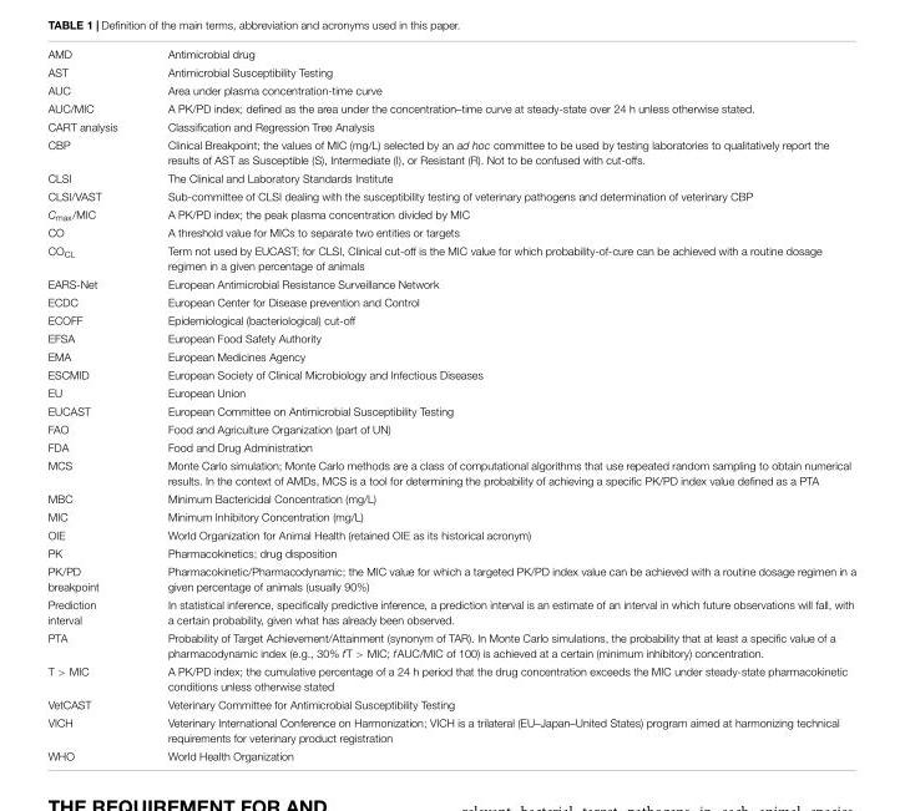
<table><tbody><tr><td>AMD</td><td>Antimicrobial drug</td></tr><tr><td>AST</td><td>Antimicrobial Susceptibility Testing</td></tr><tr><td>AUC</td><td>Area under plasma concentration-time curve</td></tr><tr><td>AUC/MIC</td><td>A PK/PD index; defined as the area under the concentration–time curve at steady-state over 24 h unless otherwise stated.</td></tr><tr><td>CART analysis</td><td>Classification and Regression Tree Analysis</td></tr><tr><td>CBP</td><td>Clinical Breakpoint; the values of MIC (mg/L) selected by an ad hoc committee to be used by testing laboratories to qualitatively report the results of AST as Susceptible (S), Intermediate (I), or Resistant (R). Not to be confused with cut-offs.</td></tr><tr><td>CLSI</td><td>The Clinical and Laboratory Standards Institute</td></tr><tr><td>CLSI/VAST</td><td>Sub-committee of CLSI dealing with the susceptibility testing of veterinary pathogens and determination of veterinary CBP</td></tr><tr><td>C<sub>max</sub>/MIC</td><td>A PK/PD index; the peak plasma concentration divided by MIC</td></tr><tr><td>CO</td><td>A threshold value for MICs to separate two entities or targets</td></tr><tr><td>CO<sub>CL</sub></td><td>Term not used by EUCAST; for CLSI, Clinical cut-off is the MIC value for which probability-of-cure can be achieved with a routine dosage regimen in a given percentage of animals</td></tr><tr><td>EARS-Net</td><td>European Antimicrobial Resistance Surveillance Network</td></tr><tr><td>ECDC</td><td>European Center for Disease prevention and Control</td></tr><tr><td>ECOFF</td><td>Epidemiological (bacteriological) cut-off</td></tr><tr><td>EFSA</td><td>European Food Safety Authority</td></tr><tr><td>EMA</td><td>European Medicines Agency</td></tr><tr><td>ESCMID</td><td>European Society of Clinical Microbiology and Infectious Diseases</td></tr><tr><td>EU</td><td>European Union</td></tr><tr><td>EUCAST</td><td>European Committee on Antimicrobial Susceptibility Testing</td></tr><tr><td>FAO</td><td>Food and Agriculture Organization (part of UN)</td></tr><tr><td>FDA</td><td>Food and Drug Administration</td></tr><tr><td>MCS</td><td>Monte Carlo simulation; Monte Carlo methods are a class of computational algorithms that use repeated random sampling to obtain numerical results. In the context of AMDs, MCS is a tool for determining the probability of achieving a specific PK/PD index value defined as a PTA</td></tr><tr><td>MBC</td><td>Minimum Bactericidal Concentration (mg/L)</td></tr><tr><td>MIC</td><td>Minimum Inhibitory Concentration (mg/L)</td></tr><tr><td>OIE</td><td>World Organization for Animal Health (retained OIE as its historical acronym)</td></tr><tr><td>PK</td><td>Pharmacokinetics; drug disposition</td></tr><tr><td>PK/PD breakpoint</td><td>Pharmacokinetic/Pharmacodynamic; the MIC value for which a targeted PK/PD index value can be achieved with a routine dosage regimen in a given percentage of animals (usually 90%)</td></tr><tr><td>Prediction interval</td><td>In statistical inference, specifically predictive inference, a prediction interval is an estimate of an interval in which future observations will fall, with a certain probability, given what has already been observed.</td></tr><tr><td>PTA</td><td>Probability of Target Achievement/Attainment (synonym of TAR). In Monte Carlo simulations, the probability that at least a specific value of a pharmacodynamic index (e.g., 30% fT &gt; MIC; fAUC/MIC of 100) is achieved at a certain (minimum inhibitory) concentration.</td></tr><tr><td>T &gt; MIC</td><td>A PK/PD index; the cumulative percentage of a 24 h period that the drug concentration exceeds the MIC under steady-state pharmacokinetic conditions unless otherwise stated</td></tr><tr><td>VetCAST</td><td>Veterinary Committee for Antimicrobial Susceptibility Testing</td></tr><tr><td>VICH</td><td>Veterinary International Conference on Harmonization; VICH is a trilateral (EU–Japan–United States) program aimed at harmonizing technical requirements for veterinary product registration</td></tr><tr><td>WHO</td><td>World Health Organization</td></tr></tbody></table>